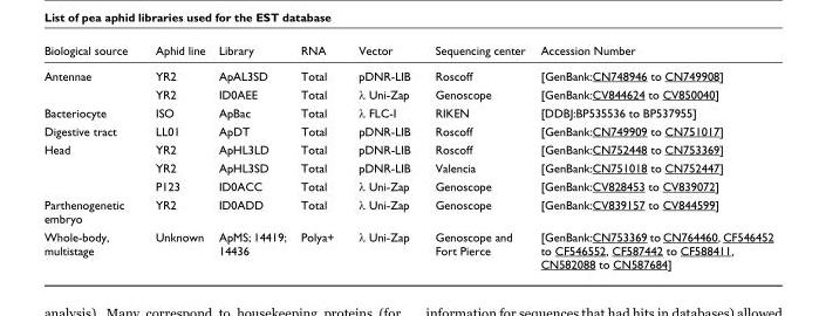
<table><thead><tr><td>Biological source</td><td>Aphid line</td><td>Library</td><td>RNA</td><td>Vector</td><td>Sequencing center</td><td>Accession Number</td></tr></thead><tbody><tr><td rowspan="2">Antennae</td><td>YR2</td><td>ApAL3SD</td><td>Total</td><td>pDNR-LIB</td><td>Roscoff</td><td>[GenBank:CN748946 to CN749908]</td></tr><tr><td>YR2</td><td>ID0AEE</td><td>Total</td><td>λ Uni-Zap</td><td>Genoscope</td><td>[GenBank:CV844624 to CV850040]</td></tr><tr><td>Bacteriocyte</td><td>ISO</td><td>ApBac</td><td>Total</td><td>λ FLC-I</td><td>RIKEN</td><td>[DDBJ:BP535536 to BP537955]</td></tr><tr><td>Digestive tract</td><td>LL01</td><td>ApDT</td><td>Total</td><td>pDNR-LIB</td><td>Roscoff</td><td>[GenBank:CN749909 to CN751017]</td></tr><tr><td rowspan="3">Head</td><td>YR2</td><td>ApHL3LD</td><td>Total</td><td>pDNR-LIB</td><td>Roscoff</td><td>[GenBank:CN752448 to CN753369]</td></tr><tr><td>YR2</td><td>ApHL3SD</td><td>Total</td><td>pDNR-LIB</td><td>Valencia</td><td>[GenBank:CN751018 to CN752447]</td></tr><tr><td>P123</td><td>ID0ACC</td><td>Total</td><td>λ Uni-Zap</td><td>Genoscope</td><td>[GenBank:CV828453 to CV839072]</td></tr><tr><td>Parthenogenetic embryo</td><td>YR2</td><td>ID0ADD</td><td>Total</td><td>λ Uni-Zap</td><td>Genoscope</td><td>[GenBank:CV839157 to CV844599]</td></tr><tr><td>Whole-body, multistage</td><td>Unknown</td><td>ApMS; 14419; 14436</td><td>Polya+</td><td>λ Uni-Zap</td><td>Genoscope and Fort Pierce</td><td>[GenBank:CN753369 to CN764460, CF546452 to CF546552, CF587442 to CF588411, CN582088 to CN587684]</td></tr></tbody></table>